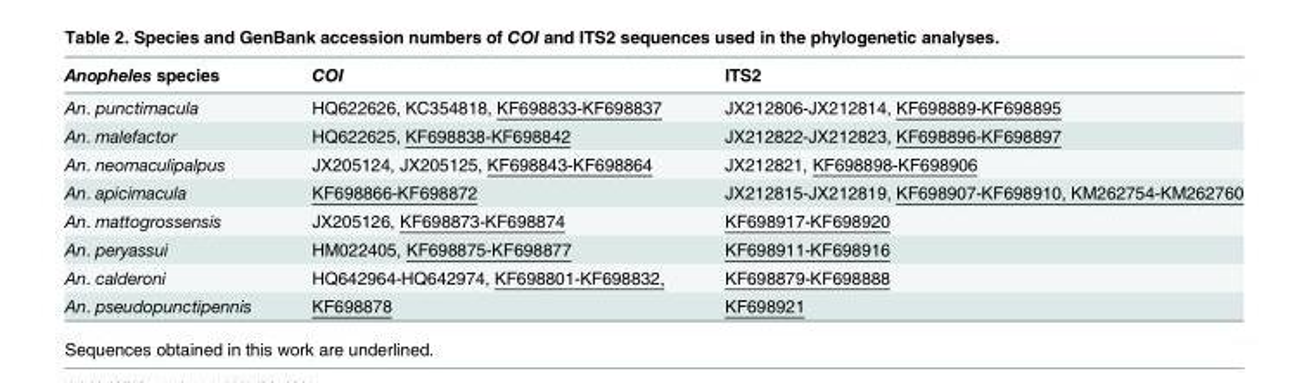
<table><thead><tr><td>Anopheles species</td><td>COI</td><td>ITS2</td></tr></thead><tbody><tr><td>An. punctimacula</td><td>HQ622626, KC354818, KF698833-KF698837</td><td>JX212806-JX212814, KF698889-KF698895</td></tr><tr><td>An. malefactor</td><td>HQ622625, KF698838-KF698842</td><td>JX212822-JX212823, KF698896-KF698897</td></tr><tr><td>An. neomaculipalpus</td><td>JX205124, JX205125, KF698843-KF698864</td><td>JX212821, KF698898-KF698906</td></tr><tr><td>An. apicimacula</td><td>KF698866-KF698872</td><td>JX212815-JX212819, KF698907-KF698910, KM262754-KM262760</td></tr><tr><td>An. mattogrossensis</td><td>JX205126, KF698873-KF698874</td><td>KF698917-KF698920</td></tr><tr><td>An. peryassui</td><td>HM022405, KF698875-KF698877</td><td>KF698911-KF698916</td></tr><tr><td>An. calderoni</td><td>HQ642964-HQ642974, KF698801-KF698832,</td><td>KF698879-KF698888</td></tr><tr><td>An. pseudopunctipennis</td><td>KF698878</td><td>KF698921</td></tr></tbody></table>